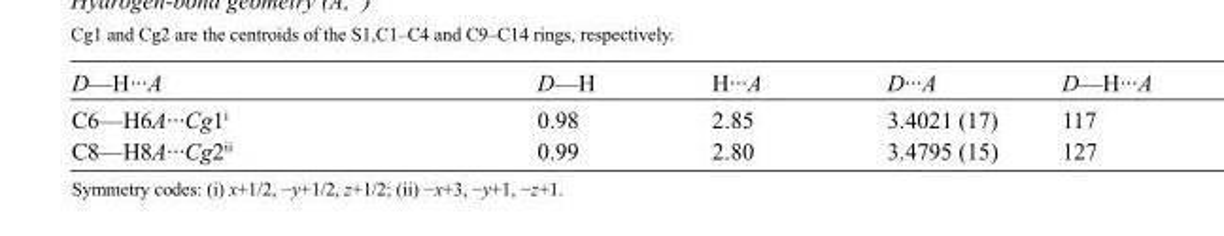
<table><tbody><tr><td>D—H···A</td><td>D—H</td><td>H···A</td><td>D···A</td><td>D—H···A</td></tr><tr><td>C6—H6A···Cg1<sup>i</sup></td><td>0.98</td><td>2.85</td><td>3.4021 (17)</td><td>117</td></tr><tr><td>C8—H8A···Cg2<sup>ii</sup></td><td>0.99</td><td>2.80</td><td>3.4795 (15)</td><td>127</td></tr></tbody></table>